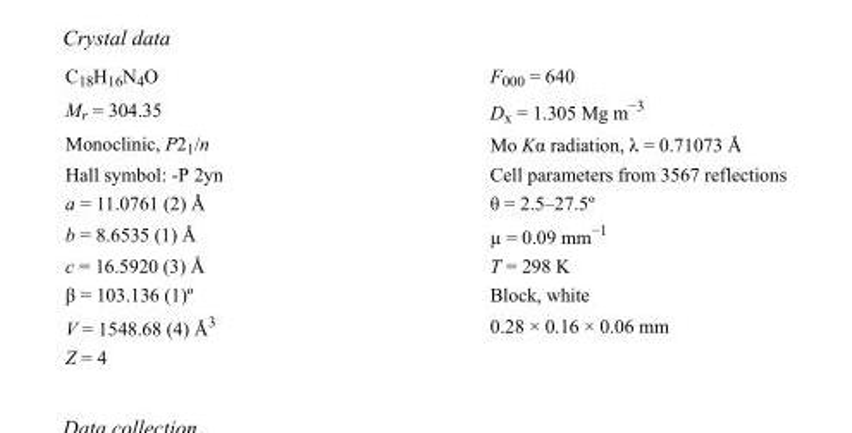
<table><tbody><tr><td>C<sub>18</sub>H<sub>16</sub>N<sub>4</sub>O</td><td>F000 = 640</td></tr><tr><td>M<sub>r</sub> = 304.35</td><td>D<sub>x</sub> = 1.305 Mg m<sup>−3</sup></td></tr><tr><td>Monoclinic, P2<sub>1</sub>/n</td><td>Mo Kα radiation, λ = 0.71073 Å</td></tr><tr><td>Hall symbol: -P 2yn</td><td>Cell parameters from 3567 reflections</td></tr><tr><td>a = 11.0761 (2) Å</td><td>θ = 2.5–27.5º</td></tr><tr><td>b = 8.6535 (1) Å</td><td>µ = 0.09 mm<sup>−1</sup></td></tr><tr><td>c = 16.5920 (3) Å</td><td>T = 298 K</td></tr><tr><td>β = 103.136 (1)º</td><td>Block, white</td></tr><tr><td>V = 1548.68 (4) Å<sup>3</sup></td><td>0.28 × 0.16 × 0.06 mm</td></tr><tr><td>Z = 4</td><td></td></tr></tbody></table>